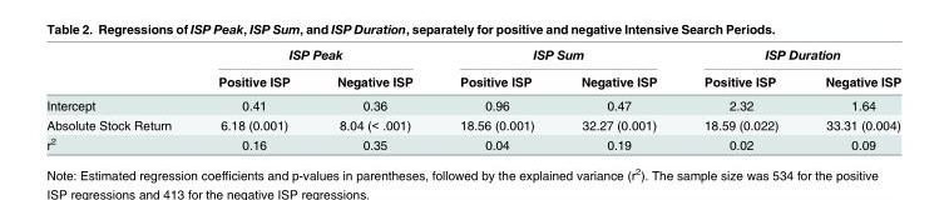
<table><thead><tr><td rowspan="2"></td><td colspan="2">ISP Peak</td><td colspan="2">ISP Sum</td><td colspan="2">ISP Duration</td></tr><tr><td>Positive ISP</td><td>Negative ISP</td><td>Positive ISP</td><td>Negative ISP</td><td>Positive ISP</td><td>Negative ISP</td></tr></thead><tbody><tr><td>Intercept</td><td>0.41</td><td>0.36</td><td>0.96</td><td>0.47</td><td>2.32</td><td>1.64</td></tr><tr><td>Absolute Stock Return</td><td>6.18 (0.001)</td><td>8.04 (&lt; .001)</td><td>18.56 (0.001)</td><td>32.27 (0.001)</td><td>18.59 (0.022)</td><td>33.31 (0.004)</td></tr><tr><td>r<sup>2</sup></td><td>0.16</td><td>0.35</td><td>0.04</td><td>0.19</td><td>0.02</td><td>0.09</td></tr></tbody></table>